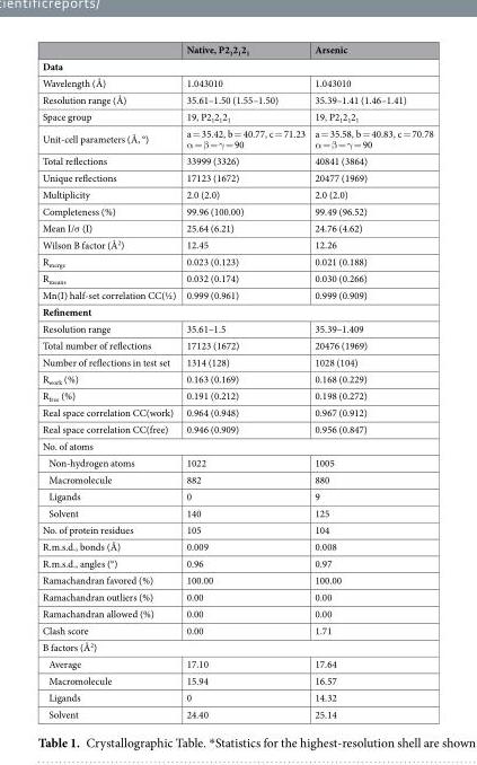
<table><thead><tr><td></td><td>Native, P2<sub>1</sub>2<sub>1</sub>2<sub>1</sub></td><td>Arsenic</td></tr></thead><tbody><tr><td colspan="3">Data</td></tr><tr><td>Wavelength (Å)</td><td>1.043010</td><td>1.043010</td></tr><tr><td>Resolution range (Å)</td><td>35.61–1.50 (1.55–1.50)</td><td>35.39–1.41 (1.46–1.41)</td></tr><tr><td>Space group</td><td>19, P2<sub>1</sub>2<sub>1</sub>2<sub>1</sub></td><td>19, P2<sub>1</sub>2<sub>1</sub>2<sub>1</sub></td></tr><tr><td>Unit-cell parameters (Å, °)</td><td>a = 35.42, b = 40.77, c = 71.23 α = β = γ = 90</td><td>a = 35.58, b = 40.83, c = 70.78 α = β = γ = 90</td></tr><tr><td>Total reflections</td><td>33999 (3326)</td><td>40841 (3864)</td></tr><tr><td>Unique reflections</td><td>17123 (1672)</td><td>20477 (1969)</td></tr><tr><td>Multiplicity</td><td>2.0 (2.0)</td><td>2.0 (2.0)</td></tr><tr><td>Completeness (%)</td><td>99.96 (100.00)</td><td>99.49 (96.52)</td></tr><tr><td>Mean I/σ (I)</td><td>25.64 (6.21)</td><td>24.76 (4.62)</td></tr><tr><td>Wilson B factor (Å<sup>2</sup>)</td><td>12.45</td><td>12.26</td></tr><tr><td>R<sub>merge</sub></td><td>0.023 (0.123)</td><td>0.021 (0.188)</td></tr><tr><td>R<sub>means</sub></td><td>0.032 (0.174)</td><td>0.030 (0.266)</td></tr><tr><td>Mn(I) half-set correlation CC(½)</td><td>0.999 (0.961)</td><td>0.999 (0.909)</td></tr><tr><td colspan="3">Refinement</td></tr><tr><td>Resolution range</td><td>35.61–1.5</td><td>35.39–1.409</td></tr><tr><td>Total number of reflections</td><td>17123 (1672)</td><td>20476 (1969)</td></tr><tr><td>Number of reflections in test set</td><td>1314 (128)</td><td>1028 (104)</td></tr><tr><td>R<sub>work</sub> (%)</td><td>0.163 (0.169)</td><td>0.168 (0.229)</td></tr><tr><td>R<sub>free</sub> (%)</td><td>0.191 (0.212)</td><td>0.198 (0.272)</td></tr><tr><td>Real space correlation CC(work)</td><td>0.964 (0.948)</td><td>0.967 (0.912)</td></tr><tr><td>Real space correlation CC(free)</td><td>0.946 (0.909)</td><td>0.956 (0.847)</td></tr><tr><td colspan="3">No. of atoms</td></tr><tr><td>Non-hydrogen atoms</td><td>1022</td><td>1005</td></tr><tr><td>Macromolecule</td><td>882</td><td>880</td></tr><tr><td>Ligands</td><td>0</td><td>9</td></tr><tr><td>Solvent</td><td>140</td><td>125</td></tr><tr><td>No. of protein residues</td><td>105</td><td>104</td></tr><tr><td>R.m.s.d., bonds (Å)</td><td>0.009</td><td>0.008</td></tr><tr><td>R.m.s.d., angles (°)</td><td>0.96</td><td>0.97</td></tr><tr><td>Ramachandran favored (%)</td><td>100.00</td><td>100.00</td></tr><tr><td>Ramachandran outliers (%)</td><td>0.00</td><td>0.00</td></tr><tr><td>Ramachandran allowed (%)</td><td>0.00</td><td>0.00</td></tr><tr><td>Clash score</td><td>0.00</td><td>1.71</td></tr><tr><td colspan="3">B factors (Å<sup>2</sup>)</td></tr><tr><td>Average</td><td>17.10</td><td>17.64</td></tr><tr><td>Macromolecule</td><td>15.94</td><td>16.57</td></tr><tr><td>Ligands</td><td>0</td><td>14.32</td></tr><tr><td>Solvent</td><td>24.40</td><td>25.14</td></tr></tbody></table>